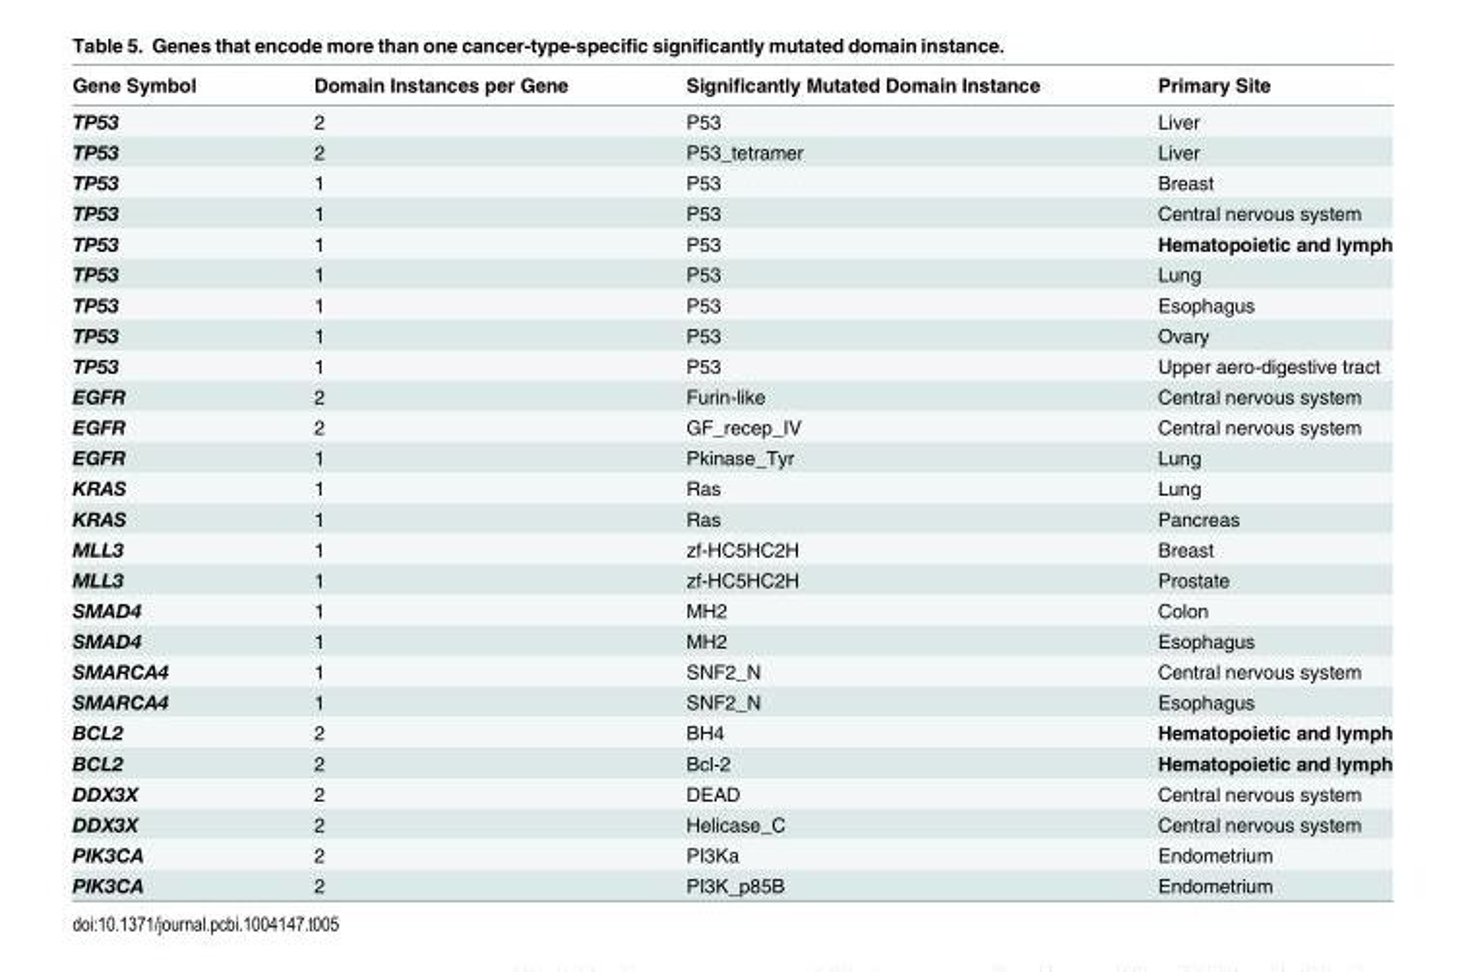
<table><thead><tr><td>Gene Symbol</td><td>Domain Instances per Gene</td><td>Significantly Mutated Domain Instance</td><td>Primary Site</td></tr></thead><tbody><tr><td>TP53</td><td>2</td><td>P53</td><td>Liver</td></tr><tr><td>TP53</td><td>2</td><td>P53_tetramer</td><td>Liver</td></tr><tr><td>TP53</td><td>1</td><td>P53</td><td>Breast</td></tr><tr><td>TP53</td><td>1</td><td>P53</td><td>Central nervous system</td></tr><tr><td>TP53</td><td>1</td><td>P53</td><td>Hematopoietic and lymph</td></tr><tr><td>TP53</td><td>1</td><td>P53</td><td>Lung</td></tr><tr><td>TP53</td><td>1</td><td>P53</td><td>Esophagus</td></tr><tr><td>TP53</td><td>1</td><td>P53</td><td>Ovary</td></tr><tr><td>TP53</td><td>1</td><td>P53</td><td>Upper aero-digestive tract</td></tr><tr><td>EGFR</td><td>2</td><td>Furin-like</td><td>Central nervous system</td></tr><tr><td>EGFR</td><td>2</td><td>GF_recep_IV</td><td>Central nervous system</td></tr><tr><td>EGFR</td><td>1</td><td>Pkinase_Tyr</td><td>Lung</td></tr><tr><td>KRAS</td><td>1</td><td>Ras</td><td>Lung</td></tr><tr><td>KRAS</td><td>1</td><td>Ras</td><td>Pancreas</td></tr><tr><td>MLL3</td><td>1</td><td>zf-HC5HC2H</td><td>Breast</td></tr><tr><td>MLL3</td><td>1</td><td>zf-HC5HC2H</td><td>Prostate</td></tr><tr><td>SMAD4</td><td>1</td><td>MH2</td><td>Colon</td></tr><tr><td>SMAD4</td><td>1</td><td>MH2</td><td>Esophagus</td></tr><tr><td>SMARCA4</td><td>1</td><td>SNF2_N</td><td>Central nervous system</td></tr><tr><td>SMARCA4</td><td>1</td><td>SNF2_N</td><td>Esophagus</td></tr><tr><td>BCL2</td><td>2</td><td>BH4</td><td>Hematopoietic and lymph</td></tr><tr><td>BCL2</td><td>2</td><td>Bcl-2</td><td>Hematopoietic and lymph</td></tr><tr><td>DDX3X</td><td>2</td><td>DEAD</td><td>Central nervous system</td></tr><tr><td>DDX3X</td><td>2</td><td>Helicase_C</td><td>Central nervous system</td></tr><tr><td>PIK3CA</td><td>2</td><td>PI3Ka</td><td>Endometrium</td></tr><tr><td>PIK3CA</td><td>2</td><td>PI3K_p85B</td><td>Endometrium</td></tr></tbody></table>